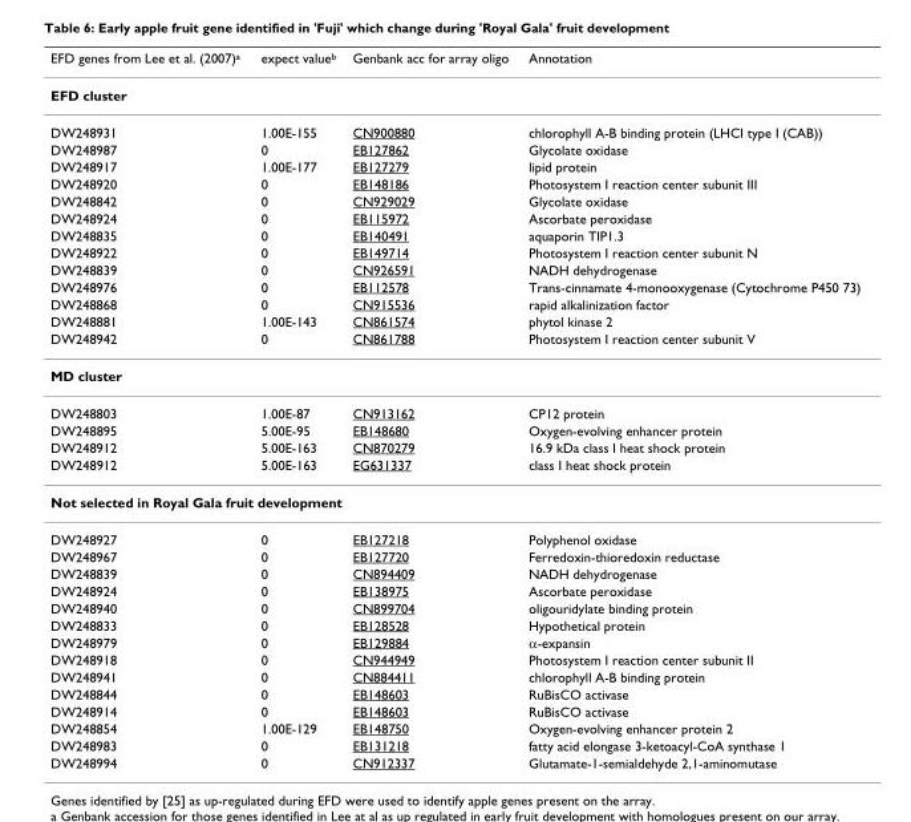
<table><thead><tr><td>EFD genes from Lee et al. (2007)<sup>a</sup></td><td>expect value<sup>b</sup></td><td>Genbank acc for array oligo</td><td>Annotation</td></tr></thead><tbody><tr><td colspan="4">EFD cluster</td></tr><tr><td>DW248931</td><td>1.00E-155</td><td>CN900880</td><td>chlorophyll A-B binding protein (LHCI type I (CAB))</td></tr><tr><td>DW248987</td><td>0</td><td>EB127862</td><td>Glycolate oxidase</td></tr><tr><td>DW248917</td><td>1.00E-177</td><td>EB127279</td><td>lipid protein</td></tr><tr><td>DW248920</td><td>0</td><td>EB148186</td><td>Photosystem I reaction center subunit III</td></tr><tr><td>DW248842</td><td>0</td><td>CN929029</td><td>Glycolate oxidase</td></tr><tr><td>DW248924</td><td>0</td><td>EB115972</td><td>Ascorbate peroxidase</td></tr><tr><td>DW248835</td><td>0</td><td>EB140491</td><td>aquaporin TIP1.3</td></tr><tr><td>DW248922</td><td>0</td><td>EB149714</td><td>Photosystem I reaction center subunit N</td></tr><tr><td>DW248839</td><td>0</td><td>CN926591</td><td>NADH dehydrogenase</td></tr><tr><td>DW248976</td><td>0</td><td>EB112578</td><td>Trans-cinnamate 4-monooxygenase (Cytochrome P450 73)</td></tr><tr><td>DW248868</td><td>0</td><td>CN915536</td><td>rapid alkalinization factor</td></tr><tr><td>DW248881</td><td>1.00E-143</td><td>CN861574</td><td>phytol kinase 2</td></tr><tr><td>DW248942</td><td>0</td><td>CN861788</td><td>Photosystem I reaction center subunit V</td></tr><tr><td colspan="4">MD cluster</td></tr><tr><td>DW248803</td><td>1.00E-87</td><td>CN913162</td><td>CP12 protein</td></tr><tr><td>DW248895</td><td>5.00E-95</td><td>EB148680</td><td>Oxygen-evolving enhancer protein</td></tr><tr><td>DW248912</td><td>5.00E-163</td><td>CN870279</td><td>16.9 kDa class I heat shock protein</td></tr><tr><td>DW248912</td><td>5.00E-163</td><td>EG631337</td><td>class I heat shock protein</td></tr><tr><td colspan="4">Not selected in Royal Gala fruit development</td></tr><tr><td>DW248927</td><td>0</td><td>EB127218</td><td>Polyphenol oxidase</td></tr><tr><td>DW248967</td><td>0</td><td>EB127720</td><td>Ferredoxin-thioredoxin reductase</td></tr><tr><td>DW248839</td><td>0</td><td>CN894409</td><td>NADH dehydrogenase</td></tr><tr><td>DW248924</td><td>0</td><td>EB138975</td><td>Ascorbate peroxidase</td></tr><tr><td>DW248940</td><td>0</td><td>CN899704</td><td>oligouridylate binding protein</td></tr><tr><td>DW248833</td><td>0</td><td>EB128528</td><td>Hypothetical protein</td></tr><tr><td>DW248979</td><td>0</td><td>EB129884</td><td>α-expansin</td></tr><tr><td>DW248918</td><td>0</td><td>CN944949</td><td>Photosystem I reaction center subunit II</td></tr><tr><td>DW248941</td><td>0</td><td>CN884411</td><td>chlorophyll A-B binding protein</td></tr><tr><td>DW248844</td><td>0</td><td>EB148603</td><td>RuBisCO activase</td></tr><tr><td>DW248914</td><td>0</td><td>EB148603</td><td>RuBisCO activase</td></tr><tr><td>DW248854</td><td>1.00E-129</td><td>EB148750</td><td>Oxygen-evolving enhancer protein 2</td></tr><tr><td>DW248983</td><td>0</td><td>EB131218</td><td>fatty acid elongase 3-ketoacyl-CoA synthase 1</td></tr><tr><td>DW248994</td><td>0</td><td>CN912337</td><td>Glutamate-1-semialdehyde 2,1-aminomutase</td></tr></tbody></table>